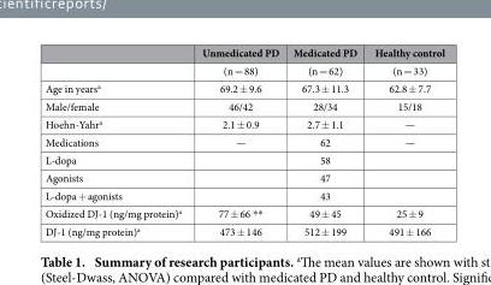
<table><thead><tr><td></td><td>Unmedicated PD</td><td>Medicated PD</td><td>Healthy control</td></tr></thead><tbody><tr><td></td><td>(n = 88)</td><td>(n = 62)</td><td>(n = 33)</td></tr><tr><td>Age in years<sup>a</sup></td><td>69.2 ± 9.6</td><td>67.3 ± 11.3</td><td>62.8 ± 7.7</td></tr><tr><td>Male/female</td><td>46/42</td><td>28/34</td><td>15/18</td></tr><tr><td>Hoehn-Yahr<sup>a</sup></td><td>2.1 ± 0.9</td><td>2.7 ± 1.1</td><td>—</td></tr><tr><td>Medications</td><td>—</td><td>62</td><td>—</td></tr><tr><td>L-dopa</td><td></td><td>58</td><td></td></tr><tr><td>Agonists</td><td></td><td>47</td><td></td></tr><tr><td>L-dopa + agonists</td><td></td><td>43</td><td></td></tr><tr><td>Oxidized DJ-1 (ng/mg protein)<sup>a</sup></td><td>77 ± 66 * *</td><td>49 ± 45</td><td>25 ± 9</td></tr><tr><td>DJ-1 (ng/mg protein)<sup>a</sup></td><td>473 ± 146</td><td>512 ± 199</td><td>491 ± 166</td></tr></tbody></table>